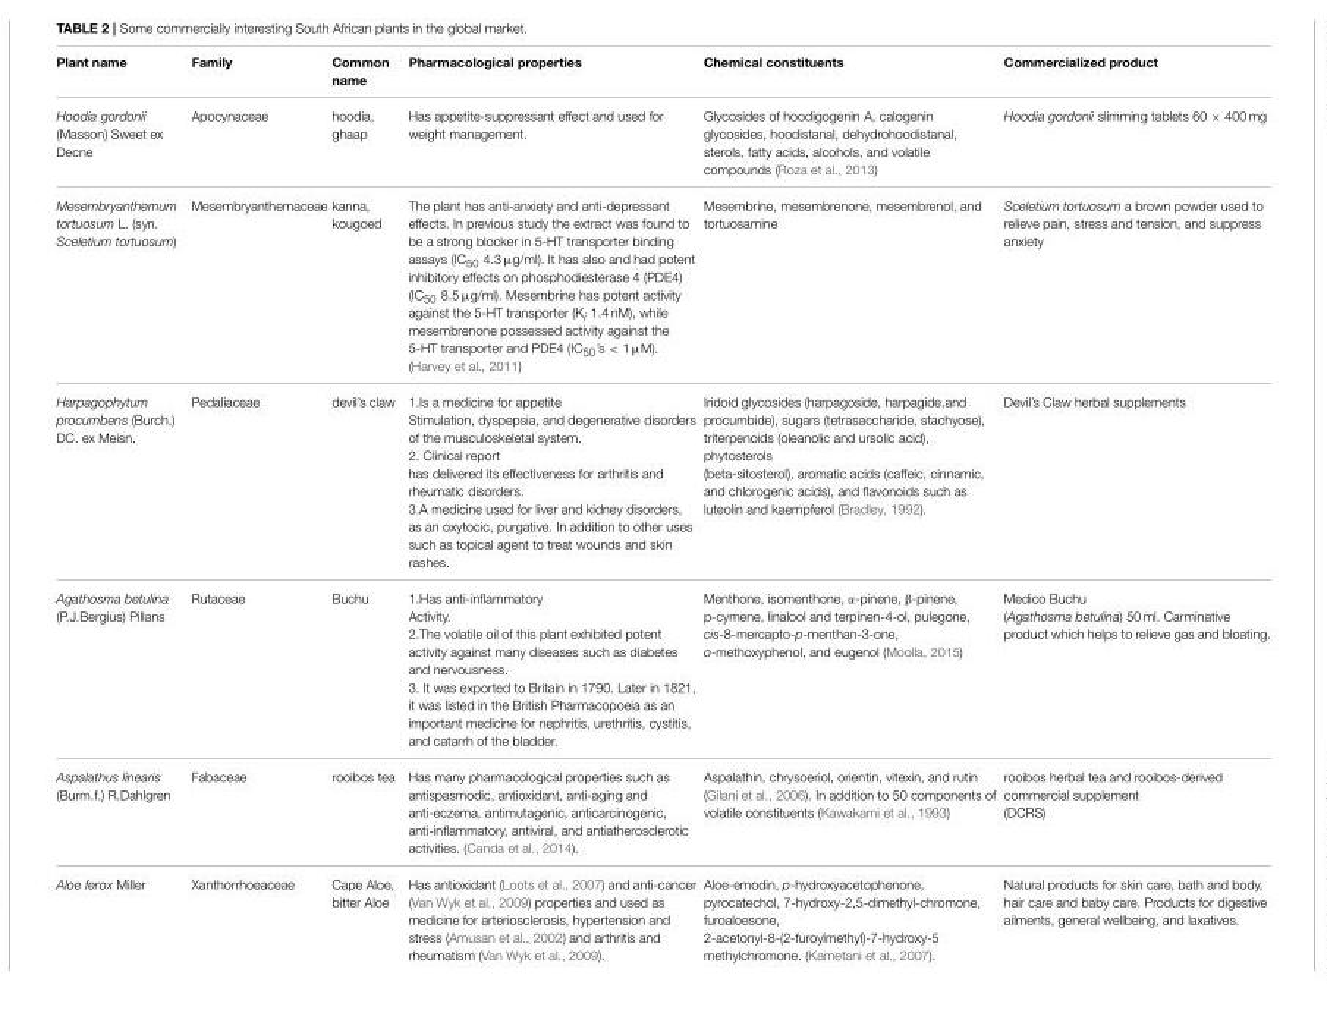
<table><thead><tr><td>Plant name</td><td>Family</td><td>Common name</td><td>Pharmacological properties</td><td>Chemical constituents</td><td>Commercialized product</td></tr></thead><tbody><tr><td>Hoodia gordonii (Masson) Sweet ex Decne</td><td>Apocynaceae</td><td>hoodia, ghaap</td><td>Has appetite-suppressant effect and used for weight management.</td><td>Glycosides of hoodigogenin A, calogenin glycosides, hoodistanal, dehydrohoodistanal, sterols, fatty acids, alcohols, and volatile compounds (Roza et al., 2013)</td><td>Hoodia gordonii slimming tablets 60 × 400 mg</td></tr><tr><td>Mesembryanthemum tortuosum L. (syn. Sceletium tortuosum)</td><td>Mesembryanthemaceae</td><td>kanna, kougoed</td><td>The plant has anti-anxiety and anti-depressant effects. In previous study the extract was found to be a strong blocker in 5-HT transporter binding assays (IC50 4.3 µg/ml). It has also and had potent inhibitory effects on phosphodiesterase 4 (PDE4) (IC50 8.5 µg/ml). Mesembrine has potent activity against the 5-HT transporter (Ki 1.4 nM), while mesembrenone possessed activity against the 5-HT transporter and PDE4 (IC50’s &lt; 1 µM). (Harvey et al., 2011)</td><td>Mesembrine, mesembrenone, mesembrenol, and tortuosamine</td><td>Sceletium tortuosum a brown powder used to relieve pain, stress and tension, and suppress anxiety</td></tr><tr><td>Harpagophytum procumbens (Burch.) DC. ex Meisn.</td><td>Pedaliaceae</td><td>devil’s claw</td><td>1.Is a medicine for appetite Stimulation, dyspepsia, and degenerative disorders of the musculoskeletal system. 2. Clinical report has delivered its effectiveness for arthritis and rheumatic disorders. 3.A medicine used for liver and kidney disorders, as an oxytocic, purgative. In addition to other uses such as topical agent to treat wounds and skin rashes.</td><td>Iridoid glycosides (harpagoside, harpagide,and procumbide), sugars (tetrasaccharide, stachyose), triterpenoids (oleanolic and ursolic acid), phytosterols (beta-sitosterol), aromatic acids (caffeic, cinnamic, and chlorogenic acids), and flavonoids such as luteolin and kaempferol (Bradley, 1992).</td><td>Devil’s Claw herbal supplements</td></tr><tr><td>Agathosma betulina (P.J.Bergius) Pillans</td><td>Rutaceae</td><td>Buchu</td><td>1.Has anti-inflammatory Activity. 2.The volatile oil of this plant exhibited potent activity against many diseases such as diabetes and nervousness. 3. It was exported to Britain in 1790. Later in 1821, it was listed in the British Pharmacopoeia as an important medicine for nephritis, urethritis, cystitis, and catarrh of the bladder.</td><td>Menthone, isomenthone, α-pinene, β-pinene, p-cymene, linalool and terpinen-4-ol, pulegone, cis-8-mercapto-p-menthan-3-one, o-methoxyphenol, and eugenol (Moolla, 2015)</td><td>Medico Buchu (Agathosma betulina) 50 ml. Carminative product which helps to relieve gas and bloating.</td></tr><tr><td>Aspalathus linearis (Burm.f.) R.Dahlgren</td><td>Fabaceae</td><td>rooibos tea</td><td>Has many pharmacological properties such as antispasmodic, antioxidant, anti-aging and anti-eczema, antimutagenic, anticarcinogenic, anti-inflammatory, antiviral, and antiatherosclerotic activities. (Canda et al., 2014).</td><td>Aspalathin, chrysoeriol, orientin, vitexin, and rutin (Gilani et al., 2006). In addition to 50 components of volatile constituents (Kawakami et al., 1993)</td><td>rooibos herbal tea and rooibos-derived commercial supplement (DCRS)</td></tr><tr><td>Aloe ferox Miller</td><td>Xanthorrhoeaceae</td><td>Cape Aloe, bitter Aloe</td><td>Has antioxidant (Loots et al., 2007) and anti-cancer (Van Wyk et al., 2009) properties and used as medicine for arteriosclerosis, hypertension and stress (Amusan et al., 2002) and arthritis and rheumatism (Van Wyk et al., 2009).</td><td>Aloe-emodin, p-hydroxyacetophenone, pyrocatechol, 7-hydroxy-2,5-dimethyl-chromone, furoaloesone, 2-acetonyl-8-(2-furoylmethyl)-7-hydroxy-5 methylchromone. (Kametani et al., 2007).</td><td>Natural products for skin care, bath and body, hair care and baby care. Products for digestive ailments, general wellbeing, and laxatives.</td></tr></tbody></table>